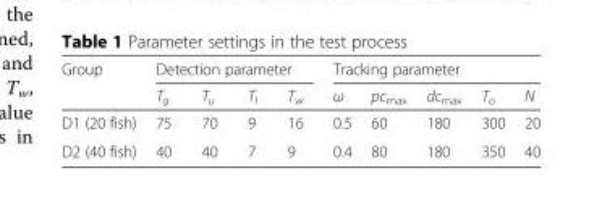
<table><thead><tr><td rowspan="2">Group</td><td colspan="4">Detection parameter</td><td colspan="5">Tracking parameter</td></tr><tr><td>T<sub>g</sub></td><td>T<sub>u</sub></td><td>T<sub>l</sub></td><td>T<sub>w</sub></td><td>ω</td><td>pc<sub>max</sub></td><td>dc<sub>max</sub></td><td>T<sub>o</sub></td><td>N</td></tr></thead><tbody><tr><td>D1 (20 fish)</td><td>75</td><td>70</td><td>9</td><td>16</td><td>0.5</td><td>60</td><td>180</td><td>300</td><td>20</td></tr><tr><td>D2 (40 fish)</td><td>40</td><td>40</td><td>7</td><td>9</td><td>0.4</td><td>80</td><td>180</td><td>350</td><td>40</td></tr></tbody></table>